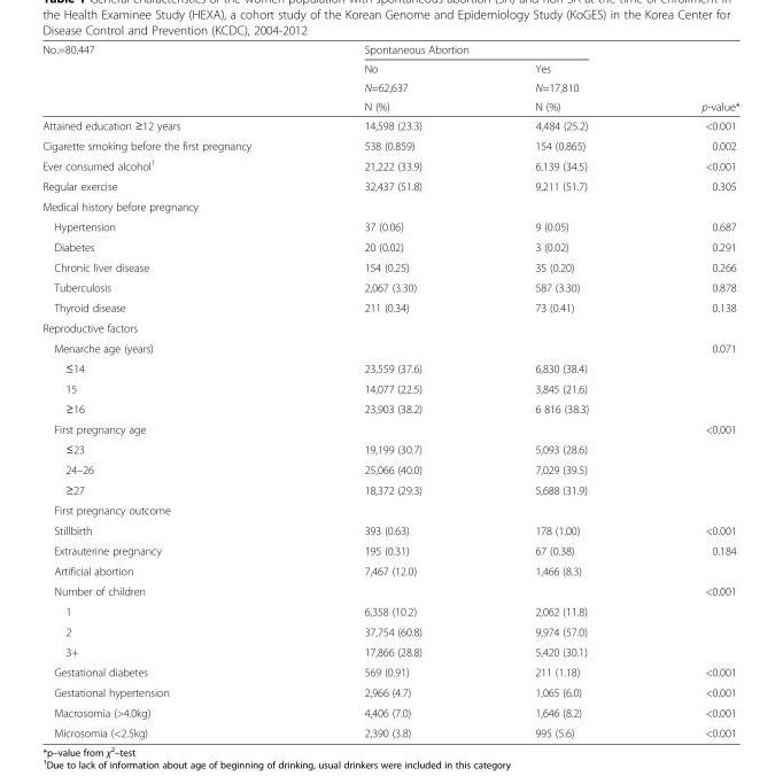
<table><thead><tr><td rowspan="4">No.=80,447</td><td colspan="2">Spontaneous Abortion</td><td rowspan="4">p-value*</td></tr><tr><td rowspan="3">No N=62,637 N (%)</td><td rowspan="3">Yes N=17,810 N (%)</td></tr><tr></tr><tr></tr></thead><tbody><tr><td>Attained education ≥12 years</td><td>14,598 (23.3)</td><td>4,484 (25.2)</td><td>&lt;0.001</td></tr><tr><td>Cigarette smoking before the first pregnancy</td><td>538 (0.859)</td><td>154 (0.865)</td><td>0.002</td></tr><tr><td>Ever consumed alcohol<sup>1</sup></td><td>21,222 (33.9)</td><td>6,139 (34.5)</td><td>&lt;0.001</td></tr><tr><td>Regular exercise</td><td>32,437 (51.8)</td><td>9,211 (51.7)</td><td>0.305</td></tr><tr><td colspan="4">Medical history before pregnancy</td></tr><tr><td>Hypertension</td><td>37 (0.06)</td><td>9 (0.05)</td><td>0.687</td></tr><tr><td>Diabetes</td><td>20 (0.02)</td><td>3 (0.02)</td><td>0.291</td></tr><tr><td>Chronic liver disease</td><td>154 (0.25)</td><td>35 (0.20)</td><td>0.266</td></tr><tr><td>Tuberculosis</td><td>2,067 (3.30)</td><td>587 (3.30)</td><td>0.878</td></tr><tr><td>Thyroid disease</td><td>211 (0.34)</td><td>73 (0.41)</td><td>0.138</td></tr><tr><td colspan="4">Reproductive factors</td></tr><tr><td>Menarche age (years)</td><td></td><td></td><td>0.071</td></tr><tr><td>≤14</td><td>23,559 (37.6)</td><td>6,830 (38.4)</td><td></td></tr><tr><td>15</td><td>14,077 (22.5)</td><td>3,845 (21.6)</td><td></td></tr><tr><td>≥16</td><td>23,903 (38.2)</td><td>6 816 (38.3)</td><td></td></tr><tr><td>First pregnancy age</td><td></td><td></td><td>&lt;0.001</td></tr><tr><td>≤23</td><td>19,199 (30.7)</td><td>5,093 (28.6)</td><td></td></tr><tr><td>24–26</td><td>25,066 (40.0)</td><td>7,029 (39.5)</td><td></td></tr><tr><td>≥27</td><td>18,372 (29.3)</td><td>5,688 (31.9)</td><td></td></tr><tr><td colspan="4">First pregnancy outcome</td></tr><tr><td>Stillbirth</td><td>393 (0.63)</td><td>178 (1.00)</td><td>&lt;0.001</td></tr><tr><td>Extrauterine pregnancy</td><td>195 (0.31)</td><td>67 (0.38)</td><td>0.184</td></tr><tr><td>Artificial abortion</td><td>7,467 (12.0)</td><td>1,466 (8.3)</td><td></td></tr><tr><td>Number of children</td><td></td><td></td><td>&lt;0.001</td></tr><tr><td>1</td><td>6,358 (10.2)</td><td>2,062 (11.8)</td><td></td></tr><tr><td>2</td><td>37,754 (60.8)</td><td>9,974 (57.0)</td><td></td></tr><tr><td>3+</td><td>17,866 (28.8)</td><td>5,420 (30.1)</td><td></td></tr><tr><td>Gestational diabetes</td><td>569 (0.91)</td><td>211 (1.18)</td><td>&lt;0.001</td></tr><tr><td>Gestational hypertension</td><td>2,966 (4.7)</td><td>1,065 (6.0)</td><td>&lt;0.001</td></tr><tr><td>Macrosomia (&gt;4.0kg)</td><td>4,406 (7.0)</td><td>1,646 (8.2)</td><td>&lt;0.001</td></tr><tr><td>Microsomia (&lt;2.5kg)</td><td>2,390 (3.8)</td><td>995 (5.6)</td><td>&lt;0.001</td></tr></tbody></table>